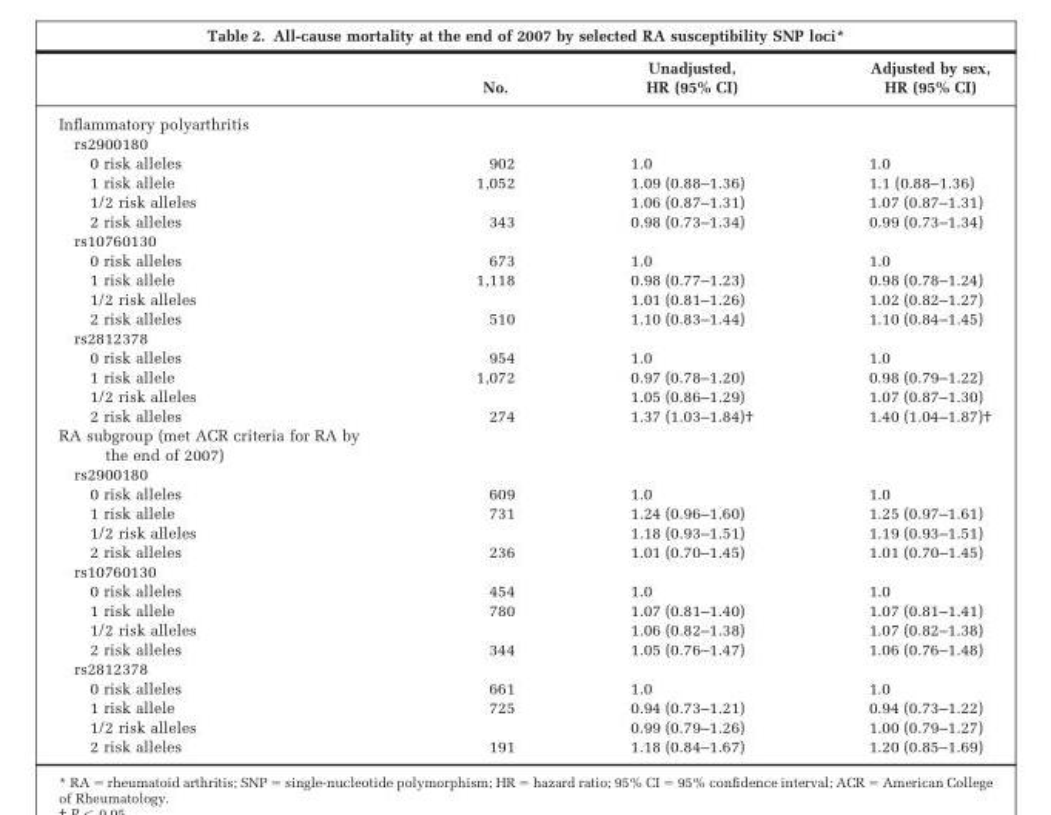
<table><thead><tr><td></td><td>No.</td><td>Unadjusted, HR (95% CI)</td><td>Adjusted by sex, HR (95% CI)</td></tr></thead><tbody><tr><td colspan="4">Inflammatory polyarthritis</td></tr><tr><td colspan="4">rs2900180</td></tr><tr><td>0 risk alleles</td><td>902</td><td>1.0</td><td>1.0</td></tr><tr><td>1 risk allele</td><td>1,052</td><td>1.09 (0.88–1.36)</td><td>1.1 (0.88–1.36)</td></tr><tr><td>1/2 risk alleles</td><td></td><td>1.06 (0.87–1.31)</td><td>1.07 (0.87–1.31)</td></tr><tr><td>2 risk alleles</td><td>343</td><td>0.98 (0.73–1.34)</td><td>0.99 (0.73–1.34)</td></tr><tr><td colspan="4">rs10760130</td></tr><tr><td>0 risk alleles</td><td>673</td><td>1.0</td><td>1.0</td></tr><tr><td>1 risk allele</td><td>1,118</td><td>0.98 (0.77–1.23)</td><td>0.98 (0.78–1.24)</td></tr><tr><td>1/2 risk alleles</td><td></td><td>1.01 (0.81–1.26)</td><td>1.02 (0.82–1.27)</td></tr><tr><td>2 risk alleles</td><td>510</td><td>1.10 (0.83–1.44)</td><td>1.10 (0.84–1.45)</td></tr><tr><td colspan="4">rs2812378</td></tr><tr><td>0 risk alleles</td><td>954</td><td>1.0</td><td>1.0</td></tr><tr><td>1 risk allele</td><td>1,072</td><td>0.97 (0.78–1.20)</td><td>0.98 (0.79–1.22)</td></tr><tr><td>1/2 risk alleles</td><td></td><td>1.05 (0.86–1.29)</td><td>1.07 (0.87–1.30)</td></tr><tr><td>2 risk alleles</td><td>274</td><td>1.37 (1.03–1.84)†</td><td>1.40 (1.04–1.87)†</td></tr><tr><td colspan="4">RA subgroup (met ACR criteria for RA by the end of 2007)</td></tr><tr><td colspan="4">rs2900180</td></tr><tr><td>0 risk alleles</td><td>609</td><td>1.0</td><td>1.0</td></tr><tr><td>1 risk allele</td><td>731</td><td>1.24 (0.96–1.60)</td><td>1.25 (0.97–1.61)</td></tr><tr><td>1/2 risk alleles</td><td></td><td>1.18 (0.93–1.51)</td><td>1.19 (0.93–1.51)</td></tr><tr><td>2 risk alleles</td><td>236</td><td>1.01 (0.70–1.45)</td><td>1.01 (0.70–1.45)</td></tr><tr><td colspan="4">rs10760130</td></tr><tr><td>0 risk alleles</td><td>454</td><td>1.0</td><td>1.0</td></tr><tr><td>1 risk allele</td><td>780</td><td>1.07 (0.81–1.40)</td><td>1.07 (0.81–1.41)</td></tr><tr><td>1/2 risk alleles</td><td></td><td>1.06 (0.82–1.38)</td><td>1.07 (0.82–1.38)</td></tr><tr><td>2 risk alleles</td><td>344</td><td>1.05 (0.76–1.47)</td><td>1.06 (0.76–1.48)</td></tr><tr><td colspan="4">rs2812378</td></tr><tr><td>0 risk alleles</td><td>661</td><td>1.0</td><td>1.0</td></tr><tr><td>1 risk allele</td><td>725</td><td>0.94 (0.73–1.21)</td><td>0.94 (0.73–1.22)</td></tr><tr><td>1/2 risk alleles</td><td></td><td>0.99 (0.79–1.26)</td><td>1.00 (0.79–1.27)</td></tr><tr><td>2 risk alleles</td><td>191</td><td>1.18 (0.84–1.67)</td><td>1.20 (0.85–1.69)</td></tr></tbody></table>